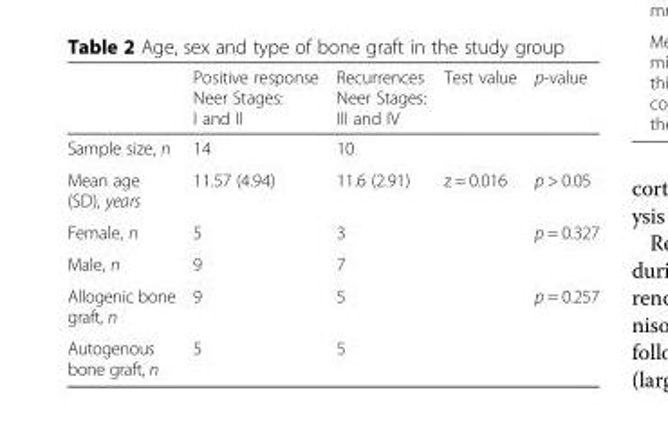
<table><thead><tr><td></td><td>Positive response Neer Stages: I and II</td><td>Recurrences Neer Stages: III and IV</td><td>Test value</td><td>p-value</td></tr></thead><tbody><tr><td>Sample size, n</td><td>14</td><td>10</td><td></td><td></td></tr><tr><td>Mean age (SD), years</td><td>11.57 (4.94)</td><td>11.6 (2.91)</td><td>z = 0.016</td><td>p &gt; 0.05</td></tr><tr><td>Female, n</td><td>5</td><td>3</td><td rowspan="2"></td><td rowspan="2">p = 0.327</td></tr><tr><td>Male, n</td><td>9</td><td>7</td></tr><tr><td>Allogenic bone graft, n</td><td>9</td><td>5</td><td rowspan="2"></td><td rowspan="2">p = 0.257</td></tr><tr><td>Autogenous bone graft, n</td><td>5</td><td>5</td></tr></tbody></table>